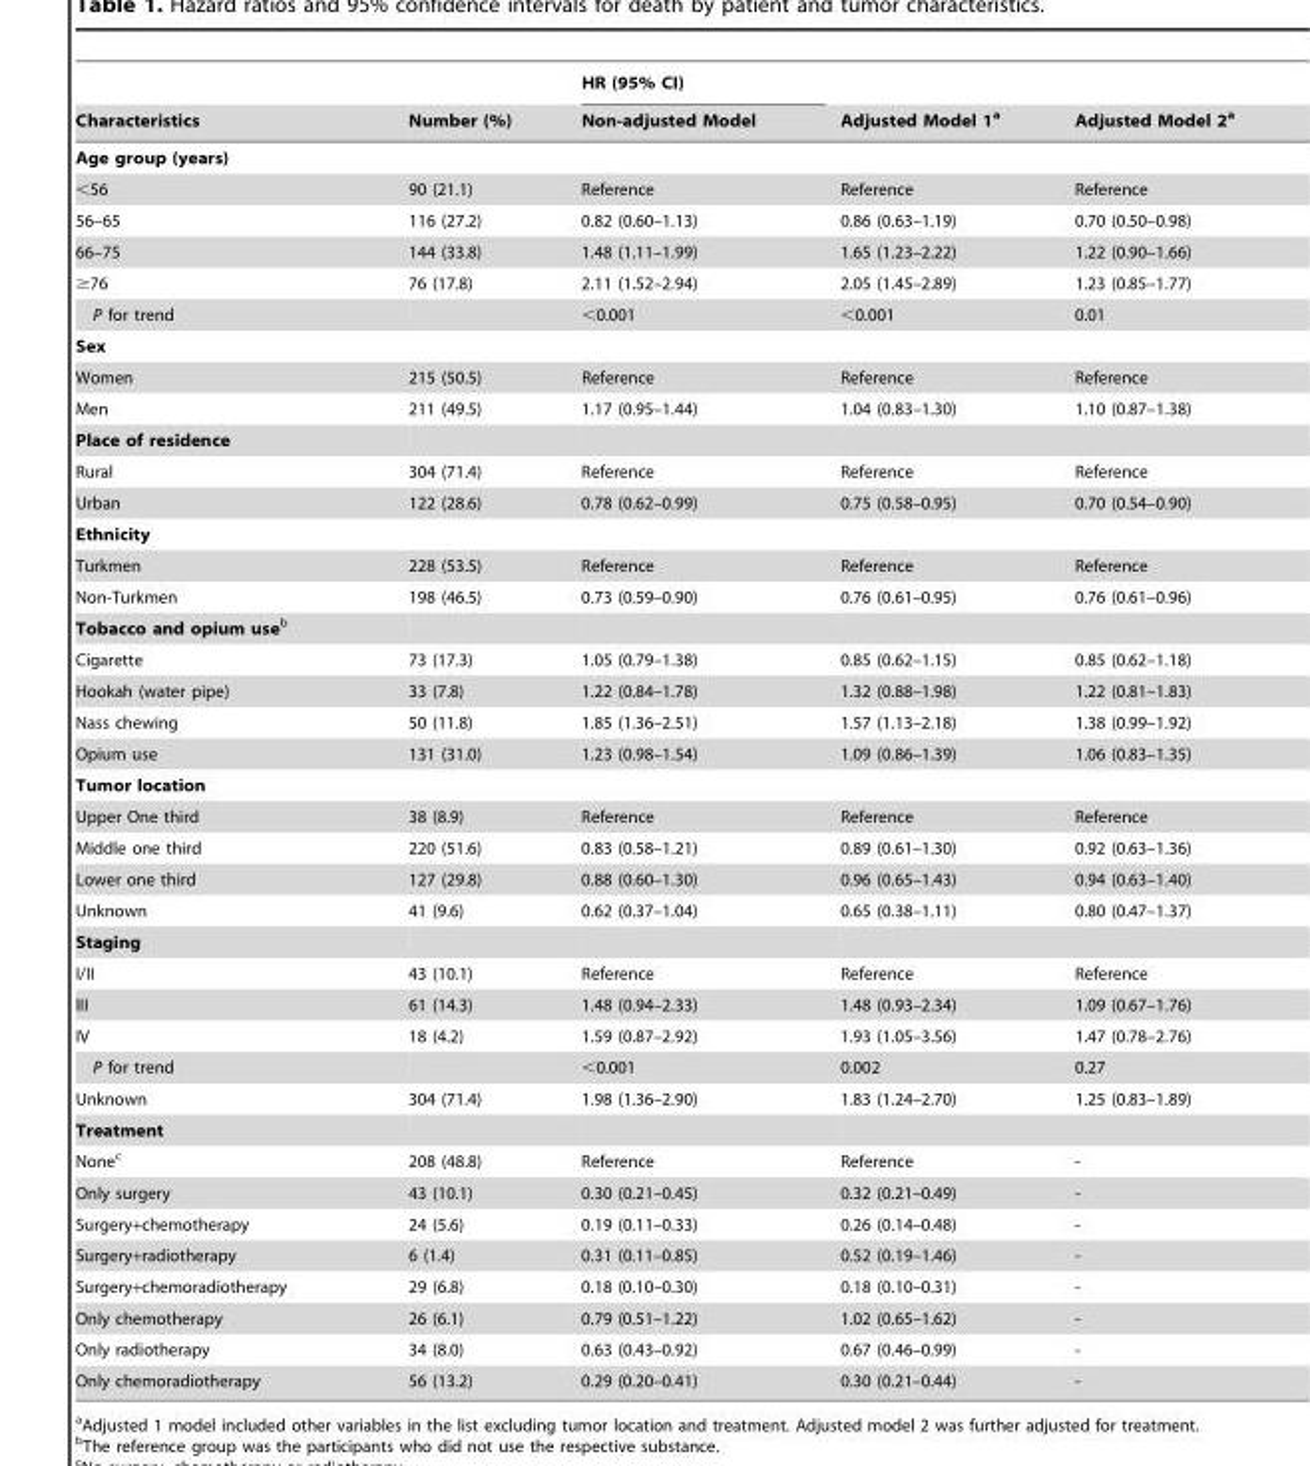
<table><thead><tr><td rowspan="2">Characteristics</td><td rowspan="2">Number (%)</td><td rowspan="2">HR (95% CI) Non-adjusted Model</td><td rowspan="2">Adjusted Model 1<sup>a</sup></td><td rowspan="2">Adjusted Model 2<sup>a</sup></td></tr><tr></tr></thead><tbody><tr><td colspan="5">Age group (years)</td></tr><tr><td>&lt;56</td><td>90 (21.1)</td><td>Reference</td><td>Reference</td><td>Reference</td></tr><tr><td>56–65</td><td>116 (27.2)</td><td>0.82 (0.60–1.13)</td><td>0.86 (0.63–1.19)</td><td>0.70 (0.50–0.98)</td></tr><tr><td>66–75</td><td>144 (33.8)</td><td>1.48 (1.11–1.99)</td><td>1.65 (1.23–2.22)</td><td>1.22 (0.90–1.66)</td></tr><tr><td>≥76</td><td>76 (17.8)</td><td>2.11 (1.52–2.94)</td><td>2.05 (1.45–2.89)</td><td>1.23 (0.85–1.77)</td></tr><tr><td>P for trend</td><td></td><td>&lt;0.001</td><td>&lt;0.001</td><td>0.01</td></tr><tr><td colspan="5">Sex</td></tr><tr><td>Women</td><td>215 (50.5)</td><td>Reference</td><td>Reference</td><td>Reference</td></tr><tr><td>Men</td><td>211 (49.5)</td><td>1.17 (0.95–1.44)</td><td>1.04 (0.83–1.30)</td><td>1.10 (0.87–1.38)</td></tr><tr><td colspan="5">Place of residence</td></tr><tr><td>Rural</td><td>304 (71.4)</td><td>Reference</td><td>Reference</td><td>Reference</td></tr><tr><td>Urban</td><td>122 (28.6)</td><td>0.78 (0.62–0.99)</td><td>0.75 (0.58–0.95)</td><td>0.70 (0.54–0.90)</td></tr><tr><td colspan="5">Ethnicity</td></tr><tr><td>Turkmen</td><td>228 (53.5)</td><td>Reference</td><td>Reference</td><td>Reference</td></tr><tr><td>Non-Turkmen</td><td>198 (46.5)</td><td>0.73 (0.59–0.90)</td><td>0.76 (0.61–0.95)</td><td>0.76 (0.61–0.96)</td></tr><tr><td colspan="5">Tobacco and opium useb</td></tr><tr><td>Cigarette</td><td>73 (17.3)</td><td>1.05 (0.79–1.38)</td><td>0.85 (0.62–1.15)</td><td>0.85 (0.62–1.18)</td></tr><tr><td>Hookah (water pipe)</td><td>33 (7.8)</td><td>1.22 (0.84–1.78)</td><td>1.32 (0.88–1.98)</td><td>1.22 (0.81–1.83)</td></tr><tr><td>Nass chewing</td><td>50 (11.8)</td><td>1.85 (1.36–2.51)</td><td>1.57 (1.13–2.18)</td><td>1.38 (0.99–1.92)</td></tr><tr><td>Opium use</td><td>131 (31.0)</td><td>1.23 (0.98–1.54)</td><td>1.09 (0.86–1.39)</td><td>1.06 (0.83–1.35)</td></tr><tr><td colspan="5">Tumor location</td></tr><tr><td>Upper One third</td><td>38 (8.9)</td><td>Reference</td><td>Reference</td><td>Reference</td></tr><tr><td>Middle one third</td><td>220 (51.6)</td><td>0.83 (0.58–1.21)</td><td>0.89 (0.61–1.30)</td><td>0.92 (0.63–1.36)</td></tr><tr><td>Lower one third</td><td>127 (29.8)</td><td>0.88 (0.60–1.30)</td><td>0.96 (0.65–1.43)</td><td>0.94 (0.63–1.40)</td></tr><tr><td>Unknown</td><td>41 (9.6)</td><td>0.62 (0.37–1.04)</td><td>0.65 (0.38–1.11)</td><td>0.80 (0.47–1.37)</td></tr><tr><td colspan="5">Staging</td></tr><tr><td>I/II</td><td>43 (10.1)</td><td>Reference</td><td>Reference</td><td>Reference</td></tr><tr><td>III</td><td>61 (14.3)</td><td>1.48 (0.94–2.33)</td><td>1.48 (0.93–2.34)</td><td>1.09 (0.67–1.76)</td></tr><tr><td>IV</td><td>18 (4.2)</td><td>1.59 (0.87–2.92)</td><td>1.93 (1.05–3.56)</td><td>1.47 (0.78–2.76)</td></tr><tr><td>P for trend</td><td></td><td>&lt;0.001</td><td>0.002</td><td>0.27</td></tr><tr><td>Unknown</td><td>304 (71.4)</td><td>1.98 (1.36–2.90)</td><td>1.83 (1.24–2.70)</td><td>1.25 (0.83–1.89)</td></tr><tr><td colspan="5">Treatment</td></tr><tr><td>None<sup>c</sup></td><td>208 (48.8)</td><td>Reference</td><td>Reference</td><td>-</td></tr><tr><td>Only surgery</td><td>43 (10.1)</td><td>0.30 (0.21–0.45)</td><td>0.32 (0.21–0.49)</td><td>-</td></tr><tr><td>Surgery+chemotherapy</td><td>24 (5.6)</td><td>0.19 (0.11–0.33)</td><td>0.26 (0.14–0.48)</td><td>-</td></tr><tr><td>Surgery+radiotherapy</td><td>6 (1.4)</td><td>0.31 (0.11–0.85)</td><td>0.52 (0.19–1.46)</td><td>-</td></tr><tr><td>Surgery+chemoradiotherapy</td><td>29 (6.8)</td><td>0.18 (0.10–0.30)</td><td>0.18 (0.10–0.31)</td><td>-</td></tr><tr><td>Only chemotherapy</td><td>26 (6.1)</td><td>0.79 (0.51–1.22)</td><td>1.02 (0.65–1.62)</td><td>-</td></tr><tr><td>Only radiotherapy</td><td>34 (8.0)</td><td>0.63 (0.43–0.92)</td><td>0.67 (0.46–0.99)</td><td>-</td></tr><tr><td>Only chemoradiotherapy</td><td>56 (13.2)</td><td>0.29 (0.20–0.41)</td><td>0.30 (0.21–0.44)</td><td>-</td></tr></tbody></table>